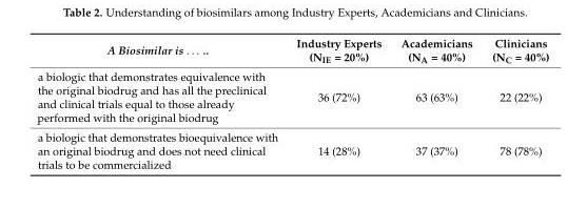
<table><thead><tr><td>A Biosimilar is . . . ..</td><td>Industry Experts (N<sub>IE</sub> = 20%)</td><td>Academicians (N<sub>A</sub> = 40%)</td><td>Clinicians (N<sub>C</sub> = 40%)</td></tr></thead><tbody><tr><td>a biologic that demonstrates equivalence with the original biodrug and has all the preclinical and clinical trials equal to those already performed with the original biodrug</td><td>36 (72%)</td><td>63 (63%)</td><td>22 (22%)</td></tr><tr><td>a biologic that demonstrates bioequivalence with an original biodrug and does not need clinical trials to be commercialized</td><td>14 (28%)</td><td>37 (37%)</td><td>78 (78%)</td></tr></tbody></table>